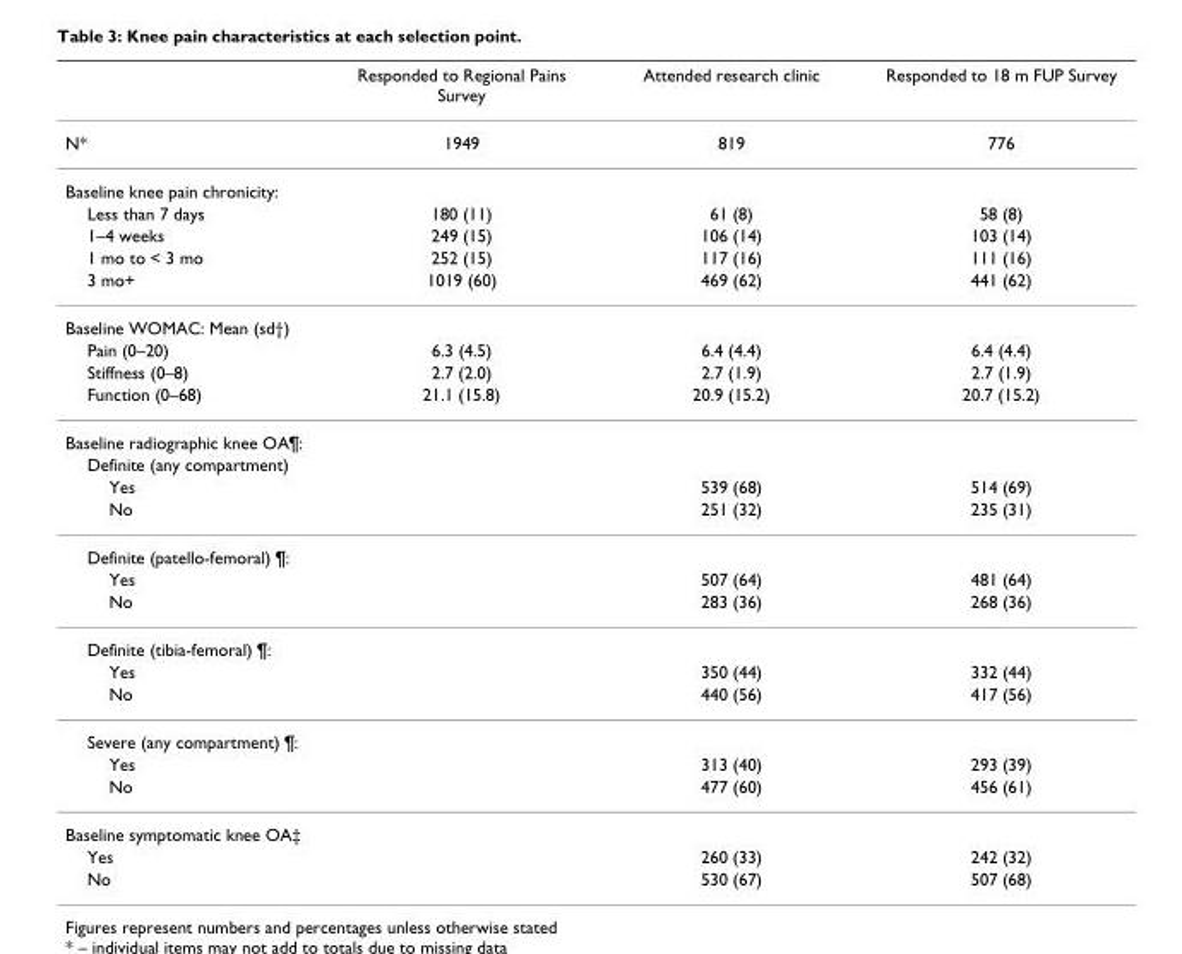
<table><thead><tr><td></td><td>Responded to Regional Pains Survey</td><td>Attended research clinic</td><td>Responded to 18 m FUP Survey</td></tr></thead><tbody><tr><td>N*</td><td>1949</td><td>819</td><td>776</td></tr><tr><td colspan="4">Baseline knee pain chronicity:</td></tr><tr><td>Less than 7 days</td><td>180 (11)</td><td>61 (8)</td><td>58 (8)</td></tr><tr><td>1–4 weeks</td><td>249 (15)</td><td>106 (14)</td><td>103 (14)</td></tr><tr><td>1 mo to &lt; 3 mo</td><td>252 (15)</td><td>117 (16)</td><td>111 (16)</td></tr><tr><td>3 mo+</td><td>1019 (60)</td><td>469 (62)</td><td>441 (62)</td></tr><tr><td colspan="4">Baseline WOMAC: Mean (sd†)</td></tr><tr><td>Pain (0–20)</td><td>6.3 (4.5)</td><td>6.4 (4.4)</td><td>6.4 (4.4)</td></tr><tr><td>Stiffness (0–8)</td><td>2.7 (2.0)</td><td>2.7 (1.9)</td><td>2.7 (1.9)</td></tr><tr><td>Function (0–68)</td><td>21.1 (15.8)</td><td>20.9 (15.2)</td><td>20.7 (15.2)</td></tr><tr><td colspan="4">Baseline radiographic knee OA¶:</td></tr><tr><td colspan="4">Definite (any compartment)</td></tr><tr><td>Yes</td><td></td><td>539 (68)</td><td>514 (69)</td></tr><tr><td>No</td><td></td><td>251 (32)</td><td>235 (31)</td></tr><tr><td colspan="4">Definite (patello-femoral) ¶:</td></tr><tr><td>Yes</td><td></td><td>507 (64)</td><td>481 (64)</td></tr><tr><td>No</td><td></td><td>283 (36)</td><td>268 (36)</td></tr><tr><td colspan="4">Definite (tibia-femoral) ¶:</td></tr><tr><td>Yes</td><td></td><td>350 (44)</td><td>332 (44)</td></tr><tr><td>No</td><td></td><td>440 (56)</td><td>417 (56)</td></tr><tr><td colspan="4">Severe (any compartment) ¶:</td></tr><tr><td>Yes</td><td></td><td>313 (40)</td><td>293 (39)</td></tr><tr><td>No</td><td></td><td>477 (60)</td><td>456 (61)</td></tr><tr><td colspan="4">Baseline symptomatic knee OA‡</td></tr><tr><td>Yes</td><td></td><td>260 (33)</td><td>242 (32)</td></tr><tr><td>No</td><td></td><td>530 (67)</td><td>507 (68)</td></tr></tbody></table>